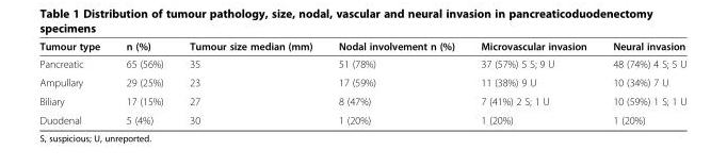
<table><thead><tr><td>Tumour type</td><td>n (%)</td><td>Tumour size median (mm)</td><td>Nodal involvement n (%)</td><td>Microvascular invasion</td><td>Neural invasion</td></tr></thead><tbody><tr><td>Pancreatic</td><td>65 (56%)</td><td>35</td><td>51 (78%)</td><td>37 (57%) 5 S; 9 U</td><td>48 (74%) 4 S; 5 U</td></tr><tr><td>Ampullary</td><td>29 (25%)</td><td>23</td><td>17 (59%)</td><td>11 (38%) 9 U</td><td>10 (34%) 7 U</td></tr><tr><td>Biliary</td><td>17 (15%)</td><td>27</td><td>8 (47%)</td><td>7 (41%) 2 S; 1 U</td><td>10 (59%) 1 S; 1 U</td></tr><tr><td>Duodenal</td><td>5 (4%)</td><td>30</td><td>1 (20%)</td><td>1 (20%)</td><td>1 (20%)</td></tr></tbody></table>